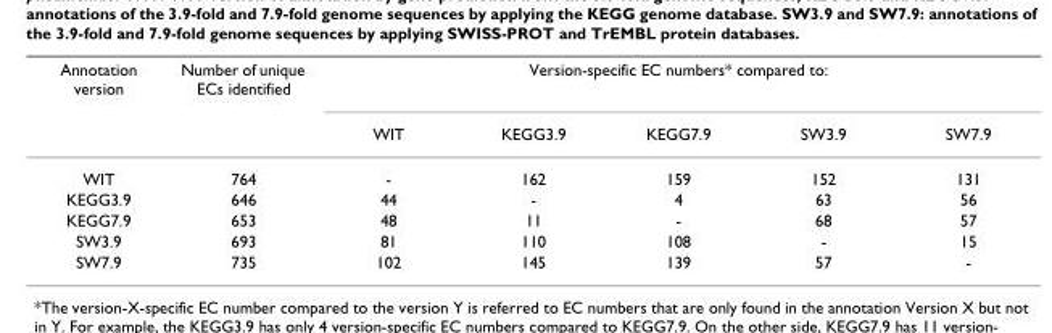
<table><thead><tr><td rowspan="2">Annotation version</td><td rowspan="2">Number of unique ECs identified</td><td colspan="5">Version-specific EC numbers* compared to:</td></tr><tr><td>WIT</td><td>KEGG3.9</td><td>KEGG7.9</td><td>SW3.9</td><td>SW7.9</td></tr></thead><tbody><tr><td>WIT</td><td>764</td><td>-</td><td>162</td><td>159</td><td>152</td><td>131</td></tr><tr><td>KEGG3.9</td><td>646</td><td>44</td><td>-</td><td>4</td><td>63</td><td>56</td></tr><tr><td>KEGG7.9</td><td>653</td><td>48</td><td>11</td><td>-</td><td>68</td><td>57</td></tr><tr><td>SW3.9</td><td>693</td><td>81</td><td>110</td><td>108</td><td>-</td><td>15</td></tr><tr><td>SW7.9</td><td>735</td><td>102</td><td>145</td><td>139</td><td>57</td><td>-</td></tr></tbody></table>